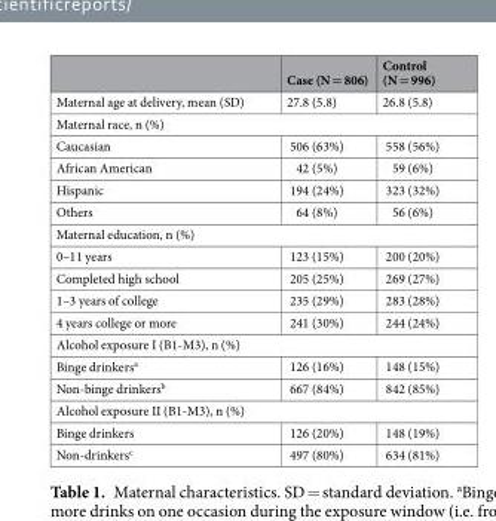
<table><thead><tr><td></td><td>Case (N = 806)</td><td>Control (N = 996)</td></tr></thead><tbody><tr><td>Maternal age at delivery, mean (SD)</td><td>27.8 (5.8)</td><td>26.8 (5.8)</td></tr><tr><td colspan="3">Maternal race, n (%)</td></tr><tr><td>Caucasian</td><td>506 (63%)</td><td>558 (56%)</td></tr><tr><td>African American</td><td>42 (5%)</td><td>59 (6%)</td></tr><tr><td>Hispanic</td><td>194 (24%)</td><td>323 (32%)</td></tr><tr><td>Others</td><td>64 (8%)</td><td>56 (6%)</td></tr><tr><td colspan="3">Maternal education, n (%)</td></tr><tr><td>0–11 years</td><td>123 (15%)</td><td>200 (20%)</td></tr><tr><td>Completed high school</td><td>205 (25%)</td><td>269 (27%)</td></tr><tr><td>1–3 years of college</td><td>235 (29%)</td><td>283 (28%)</td></tr><tr><td>4 years college or more</td><td>241 (30%)</td><td>244 (24%)</td></tr><tr><td colspan="3">Alcohol exposure I (B1-M3), n (%)</td></tr><tr><td>Binge drinkers<sup>a</sup></td><td>126 (16%)</td><td>148 (15%)</td></tr><tr><td>Non-binge drinkers<sup>b</sup></td><td>667 (84%)</td><td>842 (85%)</td></tr><tr><td colspan="3">Alcohol exposure II (B1-M3), n (%)</td></tr><tr><td>Binge drinkers</td><td>126 (20%)</td><td>148 (19%)</td></tr><tr><td>Non-drinkers<sup>c</sup></td><td>497 (80%)</td><td>634 (81%)</td></tr></tbody></table>